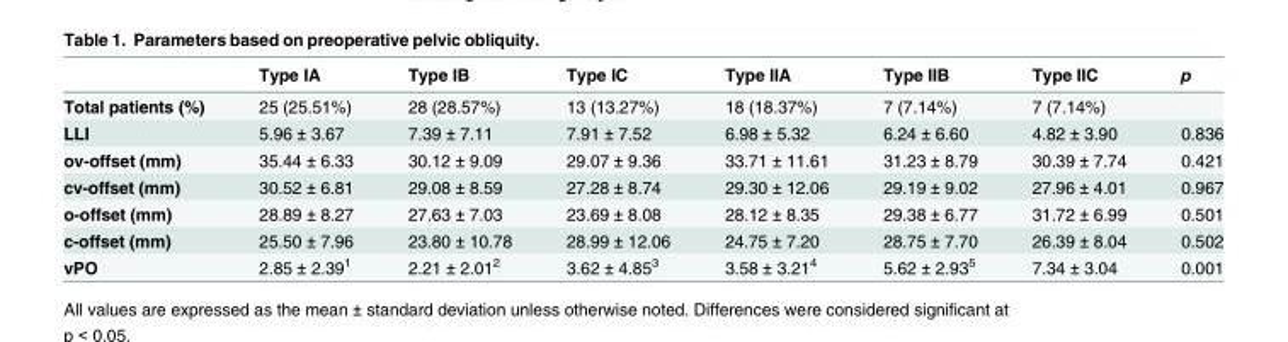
<table><thead><tr><td></td><td>Type IA</td><td>Type IB</td><td>Type IC</td><td>Type IIA</td><td>Type IIB</td><td>Type IIC</td><td>p</td></tr></thead><tbody><tr><td>Total patients (%)</td><td>25 (25.51%)</td><td>28 (28.57%)</td><td>13 (13.27%)</td><td>18 (18.37%)</td><td>7 (7.14%)</td><td>7 (7.14%)</td><td></td></tr><tr><td>LLI</td><td>5.96 ± 3.67</td><td>7.39 ± 7.11</td><td>7.91 ± 7.52</td><td>6.98 ± 5.32</td><td>6.24 ± 6.60</td><td>4.82 ± 3.90</td><td>0.836</td></tr><tr><td>ov-offset (mm)</td><td>35.44 ± 6.33</td><td>30.12 ± 9.09</td><td>29.07 ± 9.36</td><td>33.71 ± 11.61</td><td>31.23 ± 8.79</td><td>30.39 ± 7.74</td><td>0.421</td></tr><tr><td>cv-offset (mm)</td><td>30.52 ± 6.81</td><td>29.08 ± 8.59</td><td>27.28 ± 8.74</td><td>29.30 ± 12.06</td><td>29.19 ± 9.02</td><td>27.96 ± 4.01</td><td>0.967</td></tr><tr><td>o-offset (mm)</td><td>28.89 ± 8.27</td><td>27.63 ± 7.03</td><td>23.69 ± 8.08</td><td>28.12 ± 8.35</td><td>29.38 ± 6.77</td><td>31.72 ± 6.99</td><td>0.501</td></tr><tr><td>c-offset (mm)</td><td>25.50 ± 7.96</td><td>23.80 ± 10.78</td><td>28.99 ± 12.06</td><td>24.75 ± 7.20</td><td>28.75 ± 7.70</td><td>26.39 ± 8.04</td><td>0.502</td></tr><tr><td>vPO</td><td>2.85 ± 2.39<sup>1</sup></td><td>2.21 ± 2.01<sup>2</sup></td><td>3.62 ± 4.85<sup>3</sup></td><td>3.58 ± 3.21<sup>4</sup></td><td>5.62 ± 2.93<sup>5</sup></td><td>7.34 ± 3.04</td><td>0.001</td></tr></tbody></table>